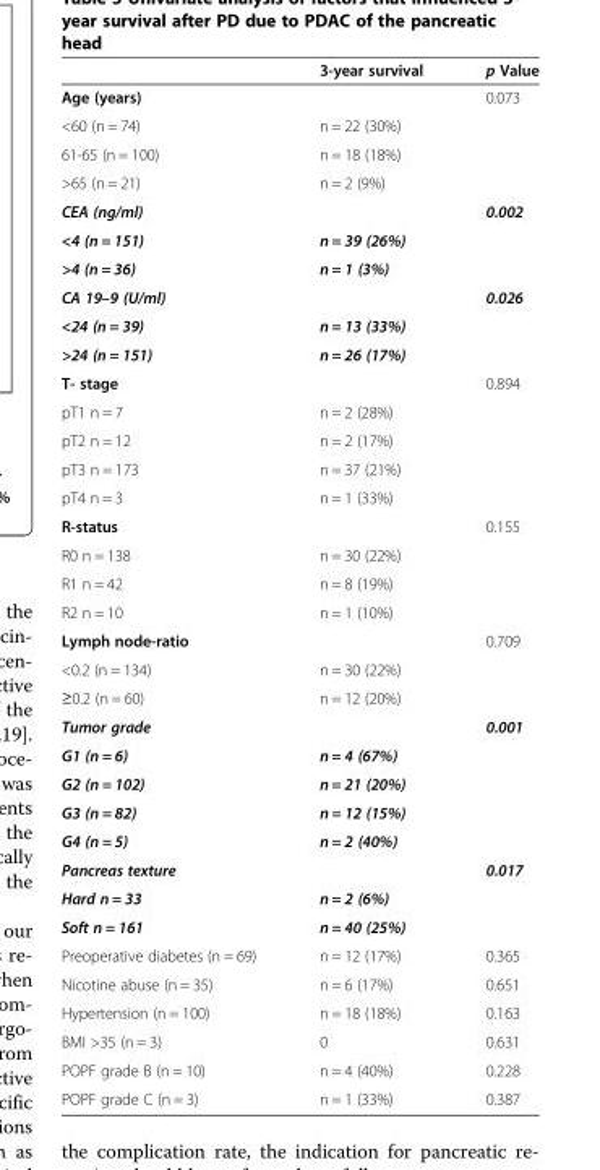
<table><thead><tr><td></td><td>3-year survival</td><td>p Value</td></tr></thead><tbody><tr><td colspan="2">Age (years)</td><td rowspan="4">0.073</td></tr><tr><td>&lt;60 (n = 74)</td><td>n = 22 (30%)</td></tr><tr><td>61-65 (n = 100)</td><td>n = 18 (18%)</td></tr><tr><td>&gt;65 (n = 21)</td><td>n = 2 (9%)</td></tr><tr><td colspan="2">CEA (ng/ml)</td><td rowspan="3">0.002</td></tr><tr><td>&lt;4 (n = 151)</td><td>n = 39 (26%)</td></tr><tr><td>&gt;4 (n = 36)</td><td>n = 1 (3%)</td></tr><tr><td colspan="2">CA 19–9 (U/ml)</td><td rowspan="3">0.026</td></tr><tr><td>&lt;24 (n = 39)</td><td>n = 13 (33%)</td></tr><tr><td>&gt;24 (n = 151)</td><td>n = 26 (17%)</td></tr><tr><td colspan="2">T- stage</td><td rowspan="5">0.894</td></tr><tr><td>pT1 n = 7</td><td>n = 2 (28%)</td></tr><tr><td>pT2 n = 12</td><td>n = 2 (17%)</td></tr><tr><td>pT3 n = 173</td><td>n = 37 (21%)</td></tr><tr><td>pT4 n = 3</td><td>n = 1 (33%)</td></tr><tr><td colspan="2">R-status</td><td rowspan="4">0.155</td></tr><tr><td>R0 n = 138</td><td>n = 30 (22%)</td></tr><tr><td>R1 n = 42</td><td>n = 8 (19%)</td></tr><tr><td>R2 n = 10</td><td>n = 1 (10%)</td></tr><tr><td colspan="2">Lymph node-ratio</td><td rowspan="3">0.709</td></tr><tr><td>&lt;0.2 (n = 134)</td><td>n = 30 (22%)</td></tr><tr><td>≥0.2 (n = 60)</td><td>n = 12 (20%)</td></tr><tr><td colspan="2">Tumor grade</td><td rowspan="5">0.001</td></tr><tr><td>G1 (n = 6)</td><td>n = 4 (67%)</td></tr><tr><td>G2 (n = 102)</td><td>n = 21 (20%)</td></tr><tr><td>G3 (n = 82)</td><td>n = 12 (15%)</td></tr><tr><td>G4 (n = 5)</td><td>n = 2 (40%)</td></tr><tr><td colspan="2">Pancreas texture</td><td rowspan="3">0.017</td></tr><tr><td>Hard n = 33</td><td>n = 2 (6%)</td></tr><tr><td>Soft n = 161</td><td>n = 40 (25%)</td></tr><tr><td>Preoperative diabetes (n = 69)</td><td>n = 12 (17%)</td><td>0.365</td></tr><tr><td>Nicotine abuse (n = 35)</td><td>n = 6 (17%)</td><td>0.651</td></tr><tr><td>Hypertension (n = 100)</td><td>n = 18 (18%)</td><td>0.163</td></tr><tr><td>BMI &gt;35 (n = 3)</td><td>0</td><td>0.631</td></tr><tr><td>POPF grade B (n = 10)</td><td>n = 4 (40%)</td><td>0.228</td></tr><tr><td>POPF grade C (n = 3)</td><td>n = 1 (33%)</td><td>0.387</td></tr></tbody></table>